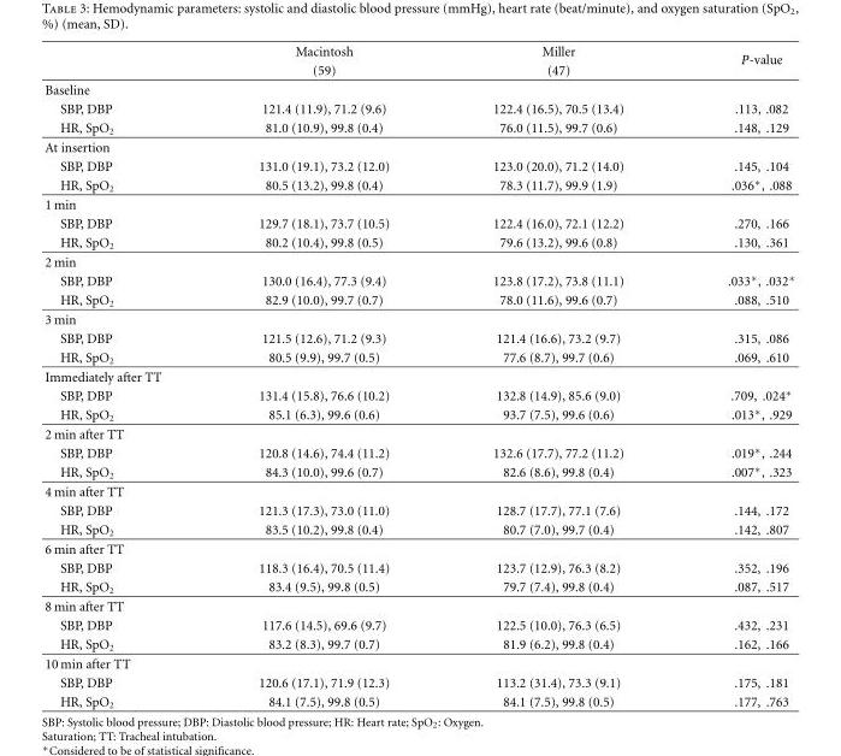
<table><thead><tr><td rowspan="2"></td><td rowspan="2">Macintosh (59)</td><td rowspan="2">Miller (47)</td><td rowspan="2">P-value</td></tr><tr></tr></thead><tbody><tr><td colspan="4">Baseline</td></tr><tr><td>SBP, DBP</td><td>121.4 (11.9), 71.2 (9.6)</td><td>122.4 (16.5), 70.5 (13.4)</td><td>.113, .082</td></tr><tr><td>HR, SpO2</td><td>81.0 (10.9), 99.8 (0.4)</td><td>76.0 (11.5), 99.7 (0.6)</td><td>.148, .129</td></tr><tr><td colspan="4">At insertion</td></tr><tr><td>SBP, DBP</td><td>131.0 (19.1), 73.2 (12.0)</td><td>123.0 (20.0), 71.2 (14.0)</td><td>.145, .104</td></tr><tr><td>HR, SpO2</td><td>80.5 (13.2), 99.8 (0.4)</td><td>78.3 (11.7), 99.9 (1.9)</td><td>.036∗, .088</td></tr><tr><td colspan="4">1 min</td></tr><tr><td>SBP, DBP</td><td>129.7 (18.1), 73.7 (10.5)</td><td>122.4 (16.0), 72.1 (12.2)</td><td>.270, .166</td></tr><tr><td>HR, SpO2</td><td>80.2 (10.4), 99.8 (0.5)</td><td>79.6 (13.2), 99.6 (0.8)</td><td>.130, .361</td></tr><tr><td colspan="4">2 min</td></tr><tr><td>SBP, DBP</td><td>130.0 (16.4), 77.3 (9.4)</td><td>123.8 (17.2), 73.8 (11.1)</td><td>.033∗, .032∗</td></tr><tr><td>HR, SpO2</td><td>82.9 (10.0), 99.7 (0.7)</td><td>78.0 (11.6), 99.6 (0.7)</td><td>.088, .510</td></tr><tr><td colspan="4">3 min</td></tr><tr><td>SBP, DBP</td><td>121.5 (12.6), 71.2 (9.3)</td><td>121.4 (16.6), 73.2 (9.7)</td><td>.315, .086</td></tr><tr><td>HR, SpO2</td><td>80.5 (9.9), 99.7 (0.5)</td><td>77.6 (8.7), 99.7 (0.6)</td><td>.069, .610</td></tr><tr><td colspan="4">Immediately after TT</td></tr><tr><td>SBP, DBP</td><td>131.4 (15.8), 76.6 (10.2)</td><td>132.8 (14.9), 85.6 (9.0)</td><td>.709, .024∗</td></tr><tr><td>HR, SpO2</td><td>85.1 (6.3), 99.6 (0.6)</td><td>93.7 (7.5), 99.6 (0.6)</td><td>.013∗, .929</td></tr><tr><td colspan="4">2 min after TT</td></tr><tr><td>SBP, DBP</td><td>120.8 (14.6), 74.4 (11.2)</td><td>132.6 (17.7), 77.2 (11.2)</td><td>.019∗, .244</td></tr><tr><td>HR, SpO2</td><td>84.3 (10.0), 99.6 (0.7)</td><td>82.6 (8.6), 99.8 (0.4)</td><td>.007∗, .323</td></tr><tr><td colspan="4">4 min after TT</td></tr><tr><td>SBP, DBP</td><td>121.3 (17.3), 73.0 (11.0)</td><td>128.7 (17.7), 77.1 (7.6)</td><td>.144, .172</td></tr><tr><td>HR, SpO2</td><td>83.5 (10.2), 99.8 (0.4)</td><td>80.7 (7.0), 99.7 (0.4)</td><td>.142, .807</td></tr><tr><td colspan="4">6 min after TT</td></tr><tr><td>SBP, DBP</td><td>118.3 (16.4), 70.5 (11.4)</td><td>123.7 (12.9), 76.3 (8.2)</td><td>.352, .196</td></tr><tr><td>HR, SpO2</td><td>83.4 (9.5), 99.8 (0.5)</td><td>79.7 (7.4), 99.8 (0.4)</td><td>.087, .517</td></tr><tr><td colspan="4">8 min after TT</td></tr><tr><td>SBP, DBP</td><td>117.6 (14.5), 69.6 (9.7)</td><td>122.5 (10.0), 76.3 (6.5)</td><td>.432, .231</td></tr><tr><td>HR, SpO2</td><td>83.2 (8.3), 99.7 (0.7)</td><td>81.9 (6.2), 99.8 (0.4)</td><td>.162, .166</td></tr><tr><td colspan="4">10 min after TT</td></tr><tr><td>SBP, DBP</td><td>120.6 (17.1), 71.9 (12.3)</td><td>113.2 (31.4), 73.3 (9.1)</td><td>.175, .181</td></tr><tr><td>HR, SpO2</td><td>84.1 (7.5), 99.8 (0.5)</td><td>84.1 (7.5), 99.8 (0.5)</td><td>.177, .763</td></tr></tbody></table>